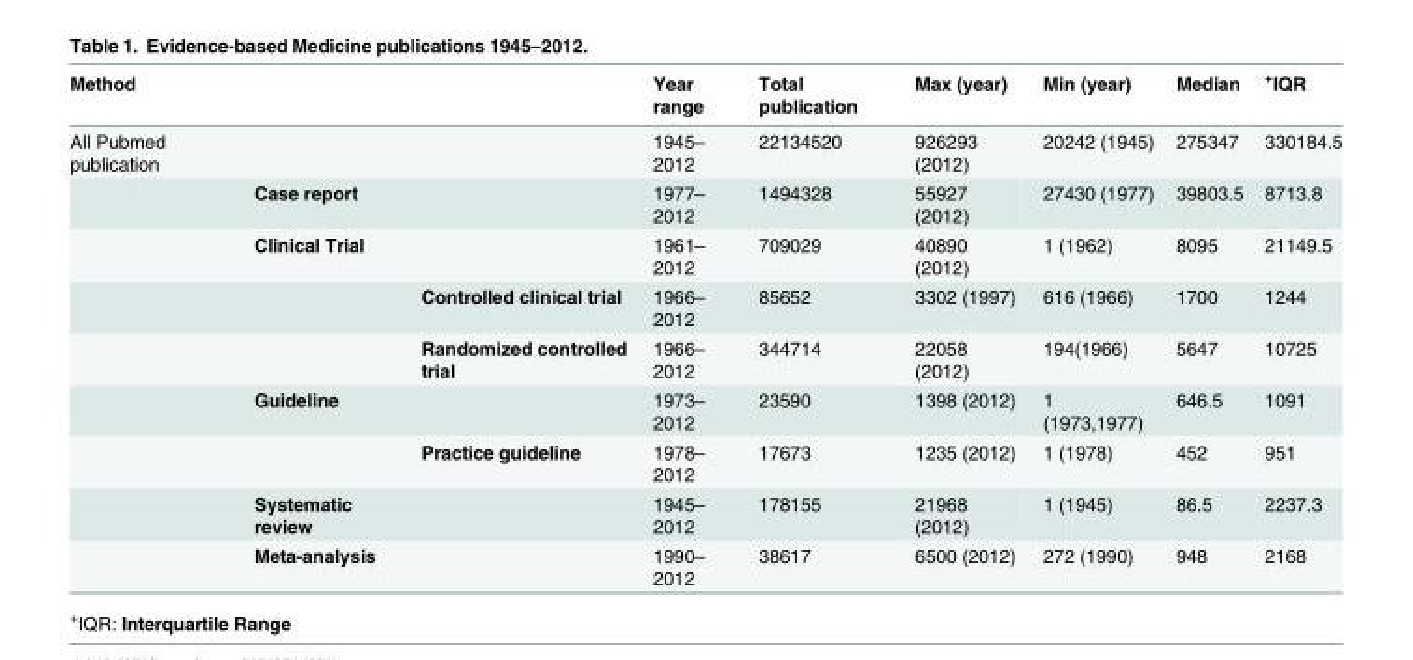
<table><thead><tr><td>Method</td><td></td><td></td><td>Year range</td><td>Total publication</td><td>Max (year)</td><td>Min (year)</td><td>Median</td><td><sup>+</sup>IQR</td></tr></thead><tbody><tr><td rowspan="9">All Pubmed publication</td><td></td><td></td><td>1945– 2012</td><td>22134520</td><td>926293 (2012)</td><td>20242 (1945)</td><td>275347</td><td>330184.5</td></tr><tr><td>Case report</td><td></td><td>1977– 2012</td><td>1494328</td><td>55927 (2012)</td><td>27430 (1977)</td><td>39803.5</td><td>8713.8</td></tr><tr><td>Clinical Trial</td><td></td><td>1961– 2012</td><td>709029</td><td>40890 (2012)</td><td>1 (1962)</td><td>8095</td><td>21149.5</td></tr><tr><td></td><td>Controlled clinical trial</td><td>1966– 2012</td><td>85652</td><td>3302 (1997)</td><td>616 (1966)</td><td>1700</td><td>1244</td></tr><tr><td></td><td>Randomized controlled trial</td><td>1966– 2012</td><td>344714</td><td>22058 (2012)</td><td>194(1966)</td><td>5647</td><td>10725</td></tr><tr><td>Guideline</td><td></td><td>1973– 2012</td><td>23590</td><td>1398 (2012)</td><td>1 (1973,1977)</td><td>646.5</td><td>1091</td></tr><tr><td></td><td>Practice guideline</td><td>1978– 2012</td><td>17673</td><td>1235 (2012)</td><td>1 (1978)</td><td>452</td><td>951</td></tr><tr><td>Systematic review</td><td></td><td>1945– 2012</td><td>178155</td><td>21968 (2012)</td><td>1 (1945)</td><td>86.5</td><td>2237.3</td></tr><tr><td>Meta-analysis</td><td></td><td>1990– 2012</td><td>38617</td><td>6500 (2012)</td><td>272 (1990)</td><td>948</td><td>2168</td></tr></tbody></table>